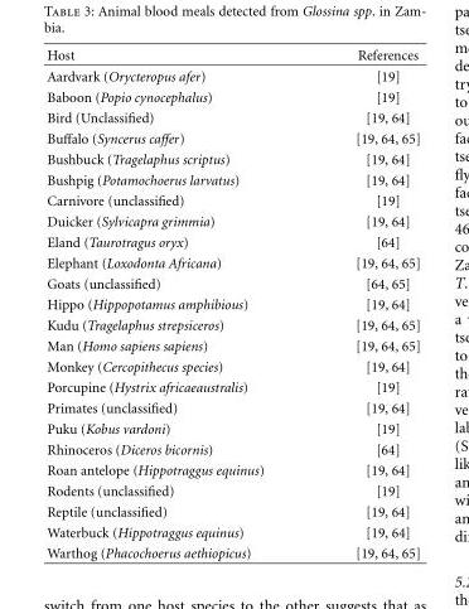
<table><thead><tr><td>Host</td><td>References</td></tr></thead><tbody><tr><td>Aardvark (Orycteropus afer)</td><td>[19]</td></tr><tr><td>Baboon (Popio cynocephalus)</td><td>[19]</td></tr><tr><td>Bird (Unclassified)</td><td>[19, 64]</td></tr><tr><td>Buffalo (Syncerus caffer)</td><td>[19, 64, 65]</td></tr><tr><td>Bushbuck (Tragelaphus scriptus)</td><td>[19, 64]</td></tr><tr><td>Bushpig (Potamochoerus larvatus)</td><td>[19, 64]</td></tr><tr><td>Carnivore (unclassified)</td><td>[19]</td></tr><tr><td>Duicker (Sylvicapra grimmia)</td><td>[19, 64]</td></tr><tr><td>Eland (Taurotragus oryx)</td><td>[64]</td></tr><tr><td>Elephant (Loxodonta Africana)</td><td>[19, 64, 65]</td></tr><tr><td>Goats (unclassified)</td><td>[64, 65]</td></tr><tr><td>Hippo (Hippopotamus amphibious)</td><td>[19, 64]</td></tr><tr><td>Kudu (Tragelaphus strepsiceros)</td><td>[19, 64, 65]</td></tr><tr><td>Man (Homo sapiens sapiens)</td><td>[19, 64, 65]</td></tr><tr><td>Monkey (Cercopithecus species)</td><td>[19, 64]</td></tr><tr><td>Porcupine (Hystrix africaeaustralis)</td><td>[19]</td></tr><tr><td>Primates (unclassified)</td><td>[19, 64]</td></tr><tr><td>Puku (Kobus vardoni)</td><td>[19]</td></tr><tr><td>Rhinoceros (Diceros bicornis)</td><td>[64]</td></tr><tr><td>Roan antelope (Hippotraggus equinus)</td><td>[19, 64]</td></tr><tr><td>Rodents (unclassified)</td><td>[19]</td></tr><tr><td>Reptile (unclassified)</td><td>[19, 64]</td></tr><tr><td>Waterbuck (Hippotraggus equinus)</td><td>[19, 64]</td></tr><tr><td>Warthog (Phacochoerus aethiopicus)</td><td>[19, 64, 65]</td></tr></tbody></table>